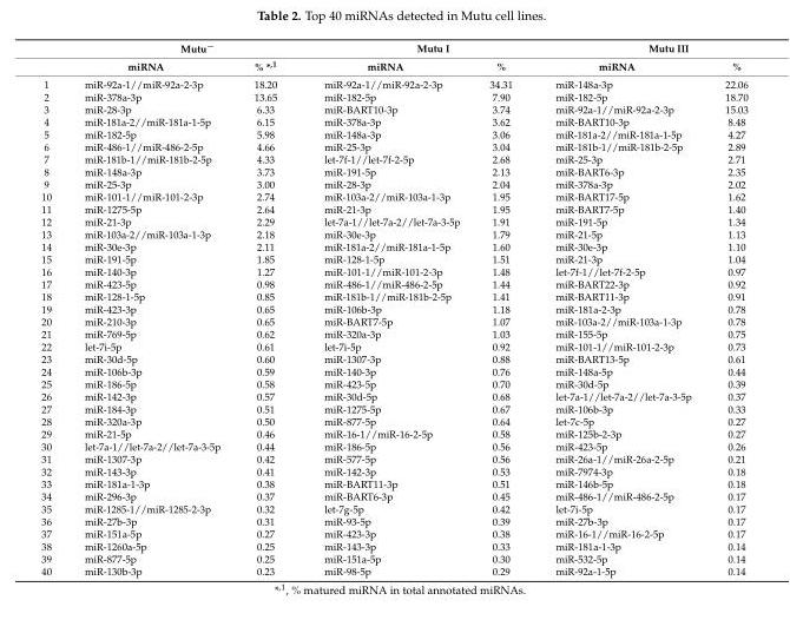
<table><thead><tr><td rowspan="2"></td><td colspan="2">Mutu<sup>−</sup></td><td colspan="2">Mutu I</td><td colspan="2">Mutu III</td></tr><tr><td>miRNA</td><td>% *<sup>,1</sup></td><td>miRNA</td><td>%</td><td>miRNA</td><td>%</td></tr></thead><tbody><tr><td>1</td><td>miR-92a-1//miR-92a-2-3p</td><td>18.20</td><td>miR-92a-1//miR-92a-2-3p</td><td>34.31</td><td>miR-148a-3p</td><td>22.06</td></tr><tr><td>2</td><td>miR-378a-3p</td><td>13.65</td><td>miR-182-5p</td><td>7.90</td><td>miR-182-5p</td><td>18.70</td></tr><tr><td>3</td><td>miR-28-3p</td><td>6.33</td><td>miR-BART10-3p</td><td>3.74</td><td>miR-92a-1//miR-92a-2-3p</td><td>15.03</td></tr><tr><td>4</td><td>miR-181a-2//miR-181a-1-5p</td><td>6.15</td><td>miR-378a-3p</td><td>3.62</td><td>miR-BART10-3p</td><td>8.48</td></tr><tr><td>5</td><td>miR-182-5p</td><td>5.98</td><td>miR-148a-3p</td><td>3.06</td><td>miR-181a-2//miR-181a-1-5p</td><td>4.27</td></tr><tr><td>6</td><td>miR-486-1//miR-486-2-5p</td><td>4.66</td><td>miR-25-3p</td><td>3.04</td><td>miR-181b-1//miR-181b-2-5p</td><td>2.89</td></tr><tr><td>7</td><td>miR-181b-1//miR-181b-2-5p</td><td>4.33</td><td>let-7f-1//let-7f-2-5p</td><td>2.68</td><td>miR-25-3p</td><td>2.71</td></tr><tr><td>8</td><td>miR-148a-3p</td><td>3.73</td><td>miR-191-5p</td><td>2.13</td><td>miR-BART6-3p</td><td>2.35</td></tr><tr><td>9</td><td>miR-25-3p</td><td>3.00</td><td>miR-28-3p</td><td>2.04</td><td>miR-378a-3p</td><td>2.02</td></tr><tr><td>10</td><td>miR-101-1//miR-101-2-3p</td><td>2.74</td><td>miR-103a-2//miR-103a-1-3p</td><td>1.95</td><td>miR-BART17-5p</td><td>1.62</td></tr><tr><td>11</td><td>miR-1275-5p</td><td>2.64</td><td>miR-21-3p</td><td>1.95</td><td>miR-BART7-5p</td><td>1.40</td></tr><tr><td>12</td><td>miR-21-3p</td><td>2.29</td><td>let-7a-1//let-7a-2//let-7a-3-5p</td><td>1.91</td><td>miR-191-5p</td><td>1.34</td></tr><tr><td>13</td><td>miR-103a-2//miR-103a-1-3p</td><td>2.18</td><td>miR-30e-3p</td><td>1.79</td><td>miR-21-5p</td><td>1.13</td></tr><tr><td>14</td><td>miR-30e-3p</td><td>2.11</td><td>miR-181a-2//miR-181a-1-5p</td><td>1.60</td><td>miR-30e-3p</td><td>1.10</td></tr><tr><td>15</td><td>miR-191-5p</td><td>1.85</td><td>miR-128-1-5p</td><td>1.51</td><td>miR-21-3p</td><td>1.04</td></tr><tr><td>16</td><td>miR-140-3p</td><td>1.27</td><td>miR-101-1//miR-101-2-3p</td><td>1.48</td><td>let-7f-1//let-7f-2-5p</td><td>0.97</td></tr><tr><td>17</td><td>miR-423-5p</td><td>0.98</td><td>miR-486-1//miR-486-2-5p</td><td>1.44</td><td>miR-BART22-3p</td><td>0.92</td></tr><tr><td>18</td><td>miR-128-1-5p</td><td>0.85</td><td>miR-181b-1//miR-181b-2-5p</td><td>1.41</td><td>miR-BART11-3p</td><td>0.91</td></tr><tr><td>19</td><td>miR-423-3p</td><td>0.65</td><td>miR-106b-3p</td><td>1.18</td><td>miR-181a-2-3p</td><td>0.78</td></tr><tr><td>20</td><td>miR-210-3p</td><td>0.65</td><td>miR-BART7-5p</td><td>1.07</td><td>miR-103a-2//miR-103a-1-3p</td><td>0.78</td></tr><tr><td>21</td><td>miR-769-5p</td><td>0.62</td><td>miR-320a-3p</td><td>1.03</td><td>miR-155-5p</td><td>0.75</td></tr><tr><td>22</td><td>let-7i-5p</td><td>0.61</td><td>let-7i-5p</td><td>0.92</td><td>miR-101-1//miR-101-2-3p</td><td>0.73</td></tr><tr><td>23</td><td>miR-30d-5p</td><td>0.60</td><td>miR-1307-3p</td><td>0.88</td><td>miR-BART13-5p</td><td>0.61</td></tr><tr><td>24</td><td>miR-106b-3p</td><td>0.59</td><td>miR-140-3p</td><td>0.76</td><td>miR-148a-5p</td><td>0.44</td></tr><tr><td>25</td><td>miR-186-5p</td><td>0.58</td><td>miR-423-5p</td><td>0.70</td><td>miR-30d-5p</td><td>0.39</td></tr><tr><td>26</td><td>miR-142-3p</td><td>0.57</td><td>miR-30d-5p</td><td>0.68</td><td>let-7a-1//let-7a-2//let-7a-3-5p</td><td>0.37</td></tr><tr><td>27</td><td>miR-184-3p</td><td>0.51</td><td>miR-1275-5p</td><td>0.67</td><td>miR-106b-3p</td><td>0.33</td></tr><tr><td>28</td><td>miR-320a-3p</td><td>0.50</td><td>miR-877-5p</td><td>0.64</td><td>let-7c-5p</td><td>0.27</td></tr><tr><td>29</td><td>miR-21-5p</td><td>0.46</td><td>miR-16-1//miR-16-2-5p</td><td>0.58</td><td>miR-125b-2-3p</td><td>0.27</td></tr><tr><td>30</td><td>let-7a-1//let-7a-2//let-7a-3-5p</td><td>0.44</td><td>miR-186-5p</td><td>0.56</td><td>miR-423-5p</td><td>0.26</td></tr><tr><td>31</td><td>miR-1307-3p</td><td>0.42</td><td>miR-577-5p</td><td>0.56</td><td>miR-26a-1//miR-26a-2-5p</td><td>0.21</td></tr><tr><td>32</td><td>miR-143-3p</td><td>0.41</td><td>miR-142-3p</td><td>0.53</td><td>miR-7974-3p</td><td>0.18</td></tr><tr><td>33</td><td>miR-181a-1-3p</td><td>0.38</td><td>miR-BART11-3p</td><td>0.51</td><td>miR-146b-5p</td><td>0.18</td></tr><tr><td>34</td><td>miR-296-3p</td><td>0.37</td><td>miR-BART6-3p</td><td>0.45</td><td>miR-486-1//miR-486-2-5p</td><td>0.17</td></tr><tr><td>35</td><td>miR-1285-1//miR-1285-2-3p</td><td>0.32</td><td>let-7g-5p</td><td>0.42</td><td>let-7i-5p</td><td>0.17</td></tr><tr><td>36</td><td>miR-27b-3p</td><td>0.31</td><td>miR-93-5p</td><td>0.39</td><td>miR-27b-3p</td><td>0.17</td></tr><tr><td>37</td><td>miR-151a-5p</td><td>0.27</td><td>miR-423-3p</td><td>0.38</td><td>miR-16-1//miR-16-2-5p</td><td>0.17</td></tr><tr><td>38</td><td>miR-1260a-5p</td><td>0.25</td><td>miR-143-3p</td><td>0.33</td><td>miR-181a-1-3p</td><td>0.14</td></tr><tr><td>39</td><td>miR-877-5p</td><td>0.25</td><td>miR-151a-5p</td><td>0.30</td><td>miR-532-5p</td><td>0.14</td></tr><tr><td>40</td><td>miR-130b-3p</td><td>0.23</td><td>miR-98-5p</td><td>0.29</td><td>miR-92a-1-5p</td><td>0.14</td></tr></tbody></table>